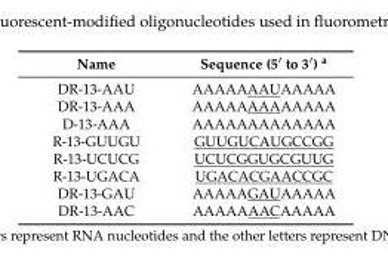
<table><thead><tr><td>Name</td><td>Sequence (5′ to 3′) <sup>a</sup></td></tr></thead><tbody><tr><td>DR-13-AAU</td><td>AAAAAAAUAAAAA</td></tr><tr><td>DR-13-AAA</td><td>AAAAAAAAAAAAA</td></tr><tr><td>D-13-AAA</td><td>AAAAAAAAAAAAA</td></tr><tr><td>R-13-GUUGU</td><td>GUUGUCAUGCCGG</td></tr><tr><td>R-13-UCUCG</td><td>UCUCGGUGCGUUG</td></tr><tr><td>R-13-UGACA</td><td>UGACACGAACCGC</td></tr><tr><td>DR-13-GAU</td><td>AAAAAGAUAAAAA</td></tr><tr><td>DR-13-AAC</td><td>AAAAAAACAAAAA</td></tr></tbody></table>